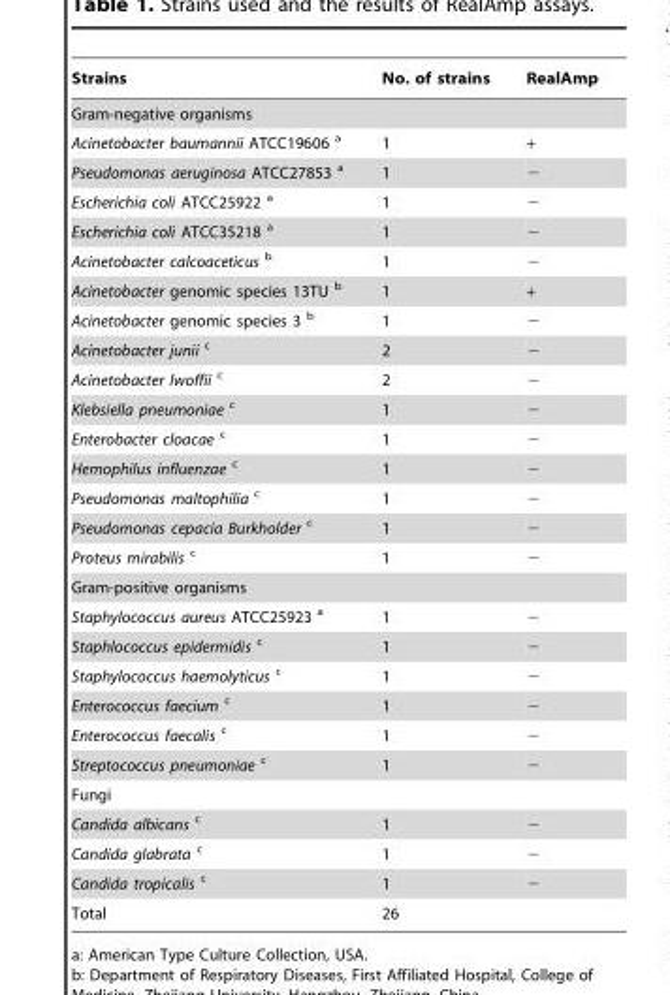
<table><thead><tr><td>Strains</td><td>No. of strains</td><td>RealAmp</td></tr></thead><tbody><tr><td colspan="3">Gram-negative organisms</td></tr><tr><td>Acinetobacter baumannii ATCC19606 <sup>a</sup></td><td>1</td><td>+</td></tr><tr><td>Pseudomonas aeruginosa ATCC27853 <sup>a</sup></td><td>1</td><td>−</td></tr><tr><td>Escherichia coli ATCC25922 <sup>a</sup></td><td>1</td><td>−</td></tr><tr><td>Escherichia coli ATCC35218 <sup>a</sup></td><td>1</td><td>−</td></tr><tr><td>Acinetobacter calcoaceticus <sup>b</sup></td><td>1</td><td>−</td></tr><tr><td>Acinetobacter genomic species 13TU <sup>b</sup></td><td>1</td><td>+</td></tr><tr><td>Acinetobacter genomic species 3 <sup>b</sup></td><td>1</td><td>−</td></tr><tr><td>Acinetobacter junii <sup>c</sup></td><td>2</td><td>−</td></tr><tr><td>Acinetobacter lwoffii <sup>c</sup></td><td>2</td><td>−</td></tr><tr><td>Klebsiella pneumoniae <sup>c</sup></td><td>1</td><td>−</td></tr><tr><td>Enterobacter cloacae <sup>c</sup></td><td>1</td><td>−</td></tr><tr><td>Hemophilus influenzae <sup>c</sup></td><td>1</td><td>−</td></tr><tr><td>Pseudomonas maltophilia <sup>c</sup></td><td>1</td><td>−</td></tr><tr><td>Pseudomonas cepacia Burkholder <sup>c</sup></td><td>1</td><td>−</td></tr><tr><td>Proteus mirabilis <sup>c</sup></td><td>1</td><td>−</td></tr><tr><td colspan="3">Gram-positive organisms</td></tr><tr><td>Staphylococcus aureus ATCC25923 <sup>a</sup></td><td>1</td><td>−</td></tr><tr><td>Staphlococcus epidermidis <sup>c</sup></td><td>1</td><td>−</td></tr><tr><td>Staphylococcus haemolyticus <sup>c</sup></td><td>1</td><td>−</td></tr><tr><td>Enterococcus faecium <sup>c</sup></td><td>1</td><td>−</td></tr><tr><td>Enterococcus faecalis <sup>c</sup></td><td>1</td><td>−</td></tr><tr><td>Streptococcus pneumoniae <sup>c</sup></td><td>1</td><td>−</td></tr><tr><td colspan="3">Fungi</td></tr><tr><td>Candida albicans <sup>c</sup></td><td>1</td><td>−</td></tr><tr><td>Candida glabrata <sup>c</sup></td><td>1</td><td>−</td></tr><tr><td>Candida tropicalis <sup>c</sup></td><td>1</td><td>−</td></tr><tr><td>Total</td><td>26</td><td></td></tr></tbody></table>